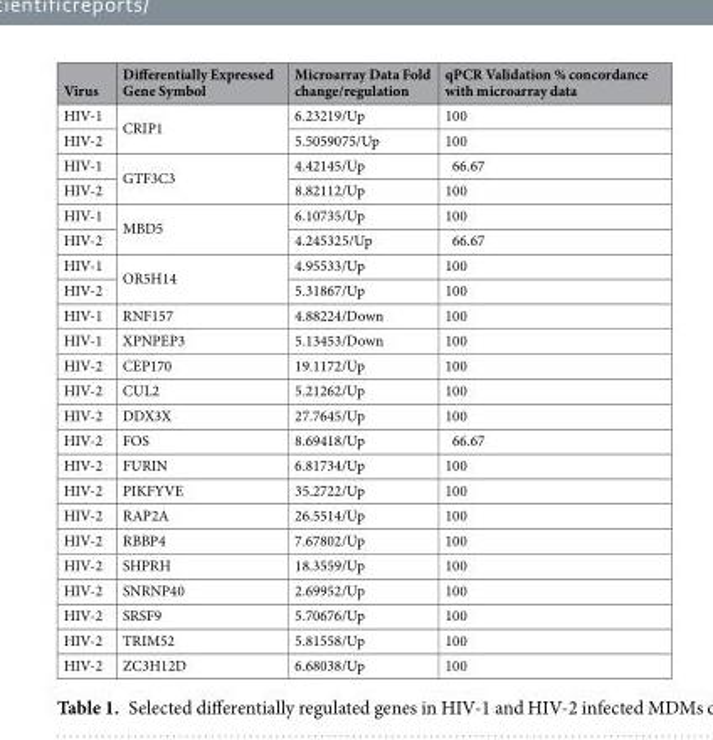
<table><thead><tr><td>Virus</td><td>Differentially Expressed Gene Symbol</td><td>Microarray Data Fold change/regulation</td><td>qPCR Validation % concordance with microarray data</td></tr></thead><tbody><tr><td>HIV-1</td><td rowspan="2">CRIP1</td><td>6.23219/Up</td><td>100</td></tr><tr><td>HIV-2</td><td>5.5059075/Up</td><td>100</td></tr><tr><td>HIV-1</td><td rowspan="2">GTF3C3</td><td>4.42145/Up</td><td>66.67</td></tr><tr><td>HIV-2</td><td>8.82112/Up</td><td>100</td></tr><tr><td>HIV-1</td><td rowspan="2">MBD5</td><td>6.10735/Up</td><td>100</td></tr><tr><td>HIV-2</td><td>4.245325/Up</td><td>66.67</td></tr><tr><td>HIV-1</td><td rowspan="2">OR5H14</td><td>4.95533/Up</td><td>100</td></tr><tr><td>HIV-2</td><td>5.31867/Up</td><td>100</td></tr><tr><td>HIV-1</td><td>RNF157</td><td>4.88224/Down</td><td>100</td></tr><tr><td>HIV-1</td><td>XPNPEP3</td><td>5.13453/Down</td><td>100</td></tr><tr><td>HIV-2</td><td>CEP170</td><td>19.1172/Up</td><td>100</td></tr><tr><td>HIV-2</td><td>CUL2</td><td>5.21262/Up</td><td>100</td></tr><tr><td>HIV-2</td><td>DDX3X</td><td>27.7645/Up</td><td>100</td></tr><tr><td>HIV-2</td><td>FOS</td><td>8.69418/Up</td><td>66.67</td></tr><tr><td>HIV-2</td><td>FURIN</td><td>6.81734/Up</td><td>100</td></tr><tr><td>HIV-2</td><td>PIKFYVE</td><td>35.2722/Up</td><td>100</td></tr><tr><td>HIV-2</td><td>RAP2A</td><td>26.5514/Up</td><td>100</td></tr><tr><td>HIV-2</td><td>RBBP4</td><td>7.67802/Up</td><td>100</td></tr><tr><td>HIV-2</td><td>SHPRH</td><td>18.3559/Up</td><td>100</td></tr><tr><td>HIV-2</td><td>SNRNP40</td><td>2.69952/Up</td><td>100</td></tr><tr><td>HIV-2</td><td>SRSF9</td><td>5.70676/Up</td><td>100</td></tr><tr><td>HIV-2</td><td>TRIM52</td><td>5.81558/Up</td><td>100</td></tr><tr><td>HIV-2</td><td>ZC3H12D</td><td>6.68038/Up</td><td>100</td></tr></tbody></table>